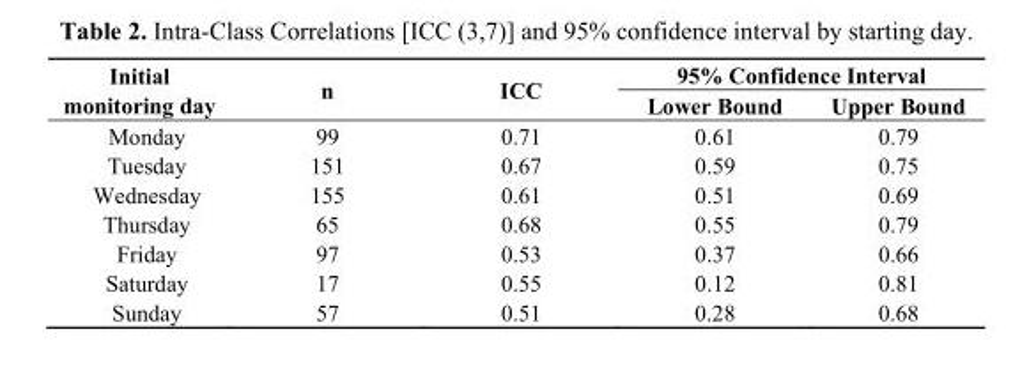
<table><thead><tr><td rowspan="2">Initial monitoring day</td><td rowspan="2">n</td><td rowspan="2">ICC</td><td colspan="2">95% Confidence Interval</td></tr><tr><td>Lower Bound</td><td>Upper Bound</td></tr></thead><tbody><tr><td>Monday</td><td>99</td><td>0.71</td><td>0.61</td><td>0.79</td></tr><tr><td>Tuesday</td><td>151</td><td>0.67</td><td>0.59</td><td>0.75</td></tr><tr><td>Wednesday</td><td>155</td><td>0.61</td><td>0.51</td><td>0.69</td></tr><tr><td>Thursday</td><td>65</td><td>0.68</td><td>0.55</td><td>0.79</td></tr><tr><td>Friday</td><td>97</td><td>0.53</td><td>0.37</td><td>0.66</td></tr><tr><td>Saturday</td><td>17</td><td>0.55</td><td>0.12</td><td>0.81</td></tr><tr><td>Sunday</td><td>57</td><td>0.51</td><td>0.28</td><td>0.68</td></tr></tbody></table>